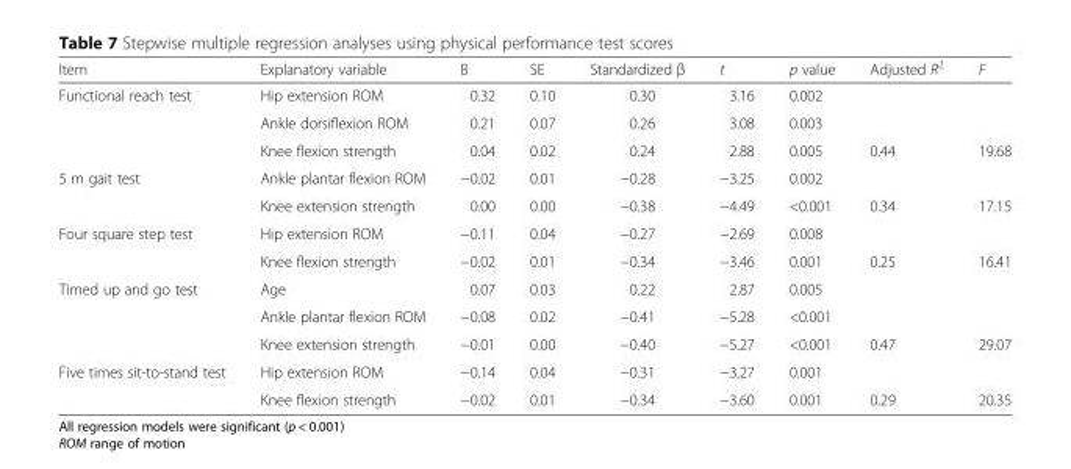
<table><thead><tr><td>Item</td><td>Explanatory variable</td><td>B</td><td>SE</td><td>Standardized β</td><td>t</td><td>p value</td><td>Adjusted R<sup>2</sup></td><td>F</td></tr></thead><tbody><tr><td rowspan="3">Functional reach test</td><td>Hip extension ROM</td><td>0.32</td><td>0.10</td><td>0.30</td><td>3.16</td><td>0.002</td><td></td><td></td></tr><tr><td>Ankle dorsiflexion ROM</td><td>0.21</td><td>0.07</td><td>0.26</td><td>3.08</td><td>0.003</td><td></td><td></td></tr><tr><td>Knee flexion strength</td><td>0.04</td><td>0.02</td><td>0.24</td><td>2.88</td><td>0.005</td><td>0.44</td><td>19.68</td></tr><tr><td rowspan="2">5 m gait test</td><td>Ankle plantar flexion ROM</td><td>−0.02</td><td>0.01</td><td>−0.28</td><td>−3.25</td><td>0.002</td><td></td><td></td></tr><tr><td>Knee extension strength</td><td>0.00</td><td>0.00</td><td>−0.38</td><td>−4.49</td><td>&lt;0.001</td><td>0.34</td><td>17.15</td></tr><tr><td rowspan="2">Four square step test</td><td>Hip extension ROM</td><td>−0.11</td><td>0.04</td><td>−0.27</td><td>−2.69</td><td>0.008</td><td></td><td></td></tr><tr><td>Knee flexion strength</td><td>−0.02</td><td>0.01</td><td>−0.34</td><td>−3.46</td><td>0.001</td><td>0.25</td><td>16.41</td></tr><tr><td rowspan="3">Timed up and go test</td><td>Age</td><td>0.07</td><td>0.03</td><td>0.22</td><td>2.87</td><td>0.005</td><td></td><td></td></tr><tr><td>Ankle plantar flexion ROM</td><td>−0.08</td><td>0.02</td><td>−0.41</td><td>−5.28</td><td>&lt;0.001</td><td></td><td></td></tr><tr><td>Knee extension strength</td><td>−0.01</td><td>0.00</td><td>−0.40</td><td>−5.27</td><td>&lt;0.001</td><td>0.47</td><td>29.07</td></tr><tr><td rowspan="2">Five times sit-to-stand test</td><td>Hip extension ROM</td><td>−0.14</td><td>0.04</td><td>−0.31</td><td>−3.27</td><td>0.001</td><td></td><td></td></tr><tr><td>Knee flexion strength</td><td>−0.02</td><td>0.01</td><td>−0.34</td><td>−3.60</td><td>0.001</td><td>0.29</td><td>20.35</td></tr></tbody></table>